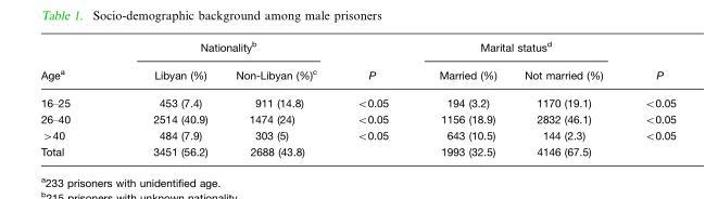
<table><thead><tr><td rowspan="2">Age<sup>a</sup></td><td colspan="2">Nationality<sup>b</sup></td><td rowspan="2">P</td><td colspan="2">Marital status<sup>d</sup></td><td rowspan="2">P</td></tr><tr><td>Libyan (%)</td><td>Non-Libyan (%)<sup>c</sup></td><td>Married (%)</td><td>Not married (%)</td></tr></thead><tbody><tr><td>16–25</td><td>453 (7.4)</td><td>911 (14.8)</td><td>&lt;0.05</td><td>194 (3.2)</td><td>1170 (19.1)</td><td>&lt;0.05</td></tr><tr><td>26–40</td><td>2514 (40.9)</td><td>1474 (24)</td><td>&lt;0.05</td><td>1156 (18.9)</td><td>2832 (46.1)</td><td>&lt;0.05</td></tr><tr><td>&gt;40</td><td>484 (7.9)</td><td>303 (5)</td><td>&lt;0.05</td><td>643 (10.5)</td><td>144 (2.3)</td><td>&lt;0.05</td></tr><tr><td>Total</td><td>3451 (56.2)</td><td>2688 (43.8)</td><td></td><td>1993 (32.5)</td><td>4146 (67.5)</td><td></td></tr></tbody></table>